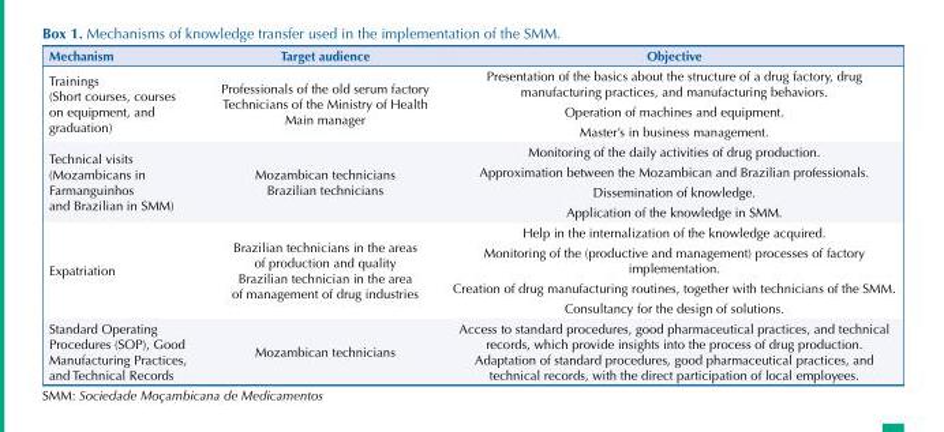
<table><thead><tr><td>Mechanism</td><td>Target audience</td><td>Objective</td></tr></thead><tbody><tr><td>Trainings (Short courses, courses on equipment, and graduation)</td><td>Professionals of the old serum factory Technicians of the Ministry of Health Main manager</td><td>Presentation of the basics about the structure of a drug factory, drug manufacturing practices, and manufacturing behaviors. Operation of machines and equipment. Master’s in business management.</td></tr><tr><td>Technical visits (Mozambicans in Farmanguinhos and Brazilian in SMM)</td><td>Mozambican technicians Brazilian technicians</td><td>Monitoring of the daily activities of drug production. Approximation between the Mozambican and Brazilian professionals. Dissemination of knowledge. Application of the knowledge in SMM.</td></tr><tr><td>Expatriation</td><td>Brazilian technicians in the areas of production and quality Brazilian technician in the area of management of drug industries</td><td>Help in the internalization of the knowledge acquired. Monitoring of the (productive and management) processes of factory implementation. Creation of drug manufacturing routines, together with technicians of the SMM. Consultancy for the design of solutions.</td></tr><tr><td>Standard Operating Procedures (SOP), Good Manufacturing Practices, and Technical Records</td><td>Mozambican technicians</td><td>Access to standard procedures, good pharmaceutical practices, and technical records, which provide insights into the process of drug production. Adaptation of standard procedures, good pharmaceutical practices, and technical records, with the direct participation of local employees.</td></tr></tbody></table>